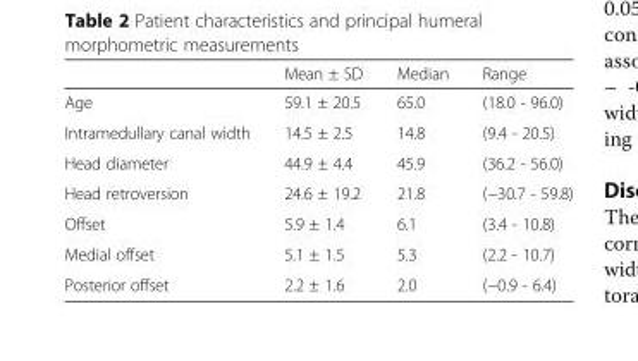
<table><thead><tr><td></td><td>Mean ± SD</td><td>Median</td><td>Range</td></tr></thead><tbody><tr><td>Age</td><td>59.1 ± 20.5</td><td>65.0</td><td>(18.0 - 96.0)</td></tr><tr><td>Intramedullary canal width</td><td>14.5 ± 2.5</td><td>14.8</td><td>(9.4 - 20.5)</td></tr><tr><td>Head diameter</td><td>44.9 ± 4.4</td><td>45.9</td><td>(36.2 - 56.0)</td></tr><tr><td>Head retroversion</td><td>24.6 ± 19.2</td><td>21.8</td><td>(−30.7 - 59.8)</td></tr><tr><td>Offset</td><td>5.9 ± 1.4</td><td>6.1</td><td>(3.4 - 10.8)</td></tr><tr><td>Medial offset</td><td>5.1 ± 1.5</td><td>5.3</td><td>(2.2 - 10.7)</td></tr><tr><td>Posterior offset</td><td>2.2 ± 1.6</td><td>2.0</td><td>(−0.9 - 6.4)</td></tr></tbody></table>